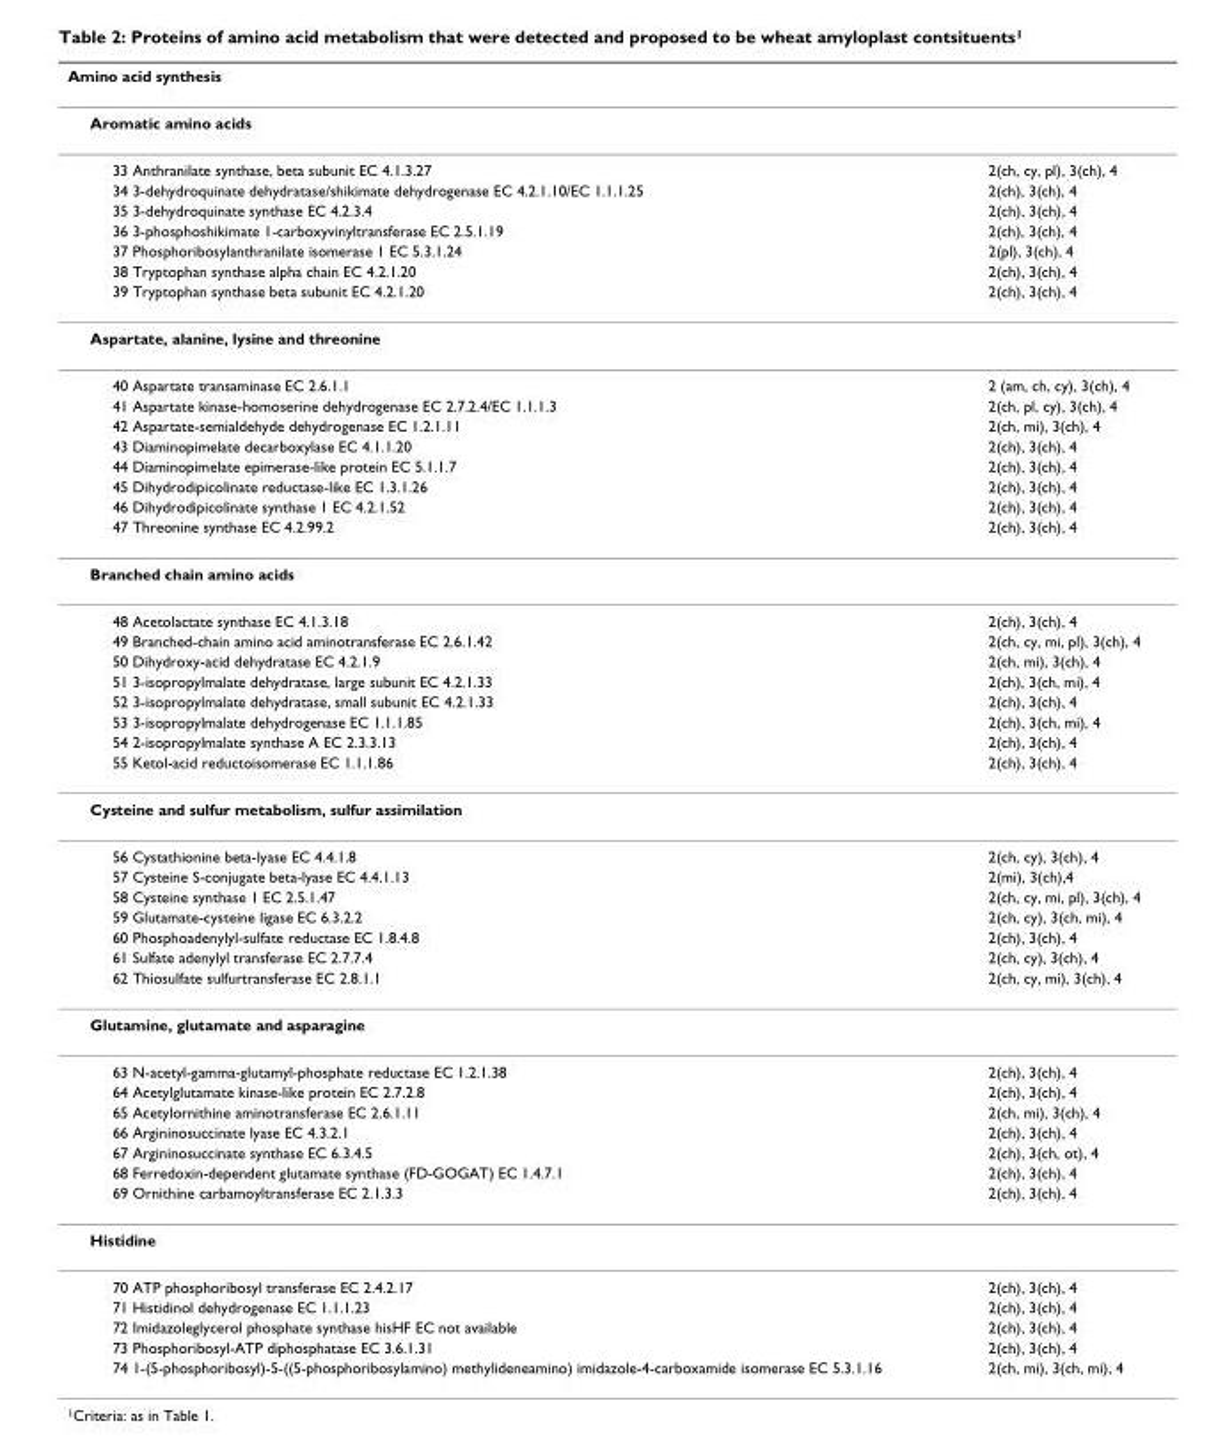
<table><thead><tr><td>Amino acid synthesis</td><td></td></tr></thead><tbody><tr><td colspan="2">Aromatic amino acids</td></tr><tr><td>33 Anthranilate synthase, beta subunit EC 4.1.3.27</td><td>2(ch, cy, pl), 3(ch), 4</td></tr><tr><td>34 3-dehydroquinate dehydratase/shikimate dehydrogenase EC 4.2.1.10/EC 1.1.1.25</td><td>2(ch), 3(ch), 4</td></tr><tr><td>35 3-dehydroquinate synthase EC 4.2.3.4</td><td>2(ch), 3(ch), 4</td></tr><tr><td>36 3-phosphoshikimate 1-carboxyvinyltransferase EC 2.5.1.19</td><td>2(ch), 3(ch), 4</td></tr><tr><td>37 Phosphoribosylanthranilate isomerase 1 EC 5.3.1.24</td><td>2(pl), 3(ch), 4</td></tr><tr><td>38 Tryptophan synthase alpha chain EC 4.2.1.20</td><td>2(ch), 3(ch), 4</td></tr><tr><td>39 Tryptophan synthase beta subunit EC 4.2.1.20</td><td>2(ch), 3(ch), 4</td></tr><tr><td colspan="2">Aspartate, alanine, lysine and threonine</td></tr><tr><td>40 Aspartate transaminase EC 2.6.1.1</td><td>2 (am, ch, cy), 3(ch), 4</td></tr><tr><td>41 Aspartate kinase-homoserine dehydrogenase EC 2.7.2.4/EC 1.1.1.3</td><td>2(ch, pl, cy), 3(ch), 4</td></tr><tr><td>42 Aspartate-semialdehyde dehydrogenase EC 1.2.1.11</td><td>2(ch, mi), 3(ch), 4</td></tr><tr><td>43 Diaminopimelate decarboxylase EC 4.1.1.20</td><td>2(ch), 3(ch), 4</td></tr><tr><td>44 Diaminopimelate epimerase-like protein EC 5.1.1.7</td><td>2(ch), 3(ch), 4</td></tr><tr><td>45 Dihydrodipicolinate reductase-like EC 1.3.1.26</td><td>2(ch), 3(ch), 4</td></tr><tr><td>46 Dihydrodipicolinate synthase 1 EC 4.2.1.52</td><td>2(ch), 3(ch), 4</td></tr><tr><td>47 Threonine synthase EC 4.2.99.2</td><td>2(ch), 3(ch), 4</td></tr><tr><td colspan="2">Branched chain amino acids</td></tr><tr><td>48 Acetolactate synthase EC 4.1.3.18</td><td>2(ch), 3(ch), 4</td></tr><tr><td>49 Branched-chain amino acid aminotransferase EC 2.6.1.42</td><td>2(ch, cy, mi, pl), 3(ch), 4</td></tr><tr><td>50 Dihydroxy-acid dehydratase EC 4.2.1.9</td><td>2(ch, mi), 3(ch), 4</td></tr><tr><td>51 3-isopropylmalate dehydratase, large subunit EC 4.2.1.33</td><td>2(ch), 3(ch, mi), 4</td></tr><tr><td>52 3-isopropylmalate dehydratase, small subunit EC 4.2.1.33</td><td>2(ch), 3(ch), 4</td></tr><tr><td>53 3-isopropylmalate dehydrogenase EC 1.1.1.85</td><td>2(ch), 3(ch, mi), 4</td></tr><tr><td>54 2-isopropylmalate synthase A EC 2.3.3.13</td><td>2(ch), 3(ch), 4</td></tr><tr><td>55 Ketol-acid reductoisomerase EC 1.1.1.86</td><td>2(ch), 3(ch), 4</td></tr><tr><td colspan="2">Cysteine and sulfur metabolism, sulfur assimilation</td></tr><tr><td>56 Cystathionine beta-lyase EC 4.4.1.8</td><td>2(ch, cy), 3(ch), 4</td></tr><tr><td>57 Cysteine S-conjugate beta-lyase EC 4.4.1.13</td><td>2(mi), 3(ch),4</td></tr><tr><td>58 Cysteine synthase 1 EC 2.5.1.47</td><td>2(ch, cy, mi, pl), 3(ch), 4</td></tr><tr><td>59 Glutamate-cysteine ligase EC 6.3.2.2</td><td>2(ch, cy), 3(ch, mi), 4</td></tr><tr><td>60 Phosphoadenylyl-sulfate reductase EC 1.8.4.8</td><td>2(ch), 3(ch), 4</td></tr><tr><td>61 Sulfate adenylyl transferase EC 2.7.7.4</td><td>2(ch, cy), 3(ch), 4</td></tr><tr><td>62 Thiosulfate sulfurtransferase EC 2.8.1.1</td><td>2(ch, cy, mi), 3(ch), 4</td></tr><tr><td colspan="2">Glutamine, glutamate and asparagine</td></tr><tr><td>63 N-acetyl-gamma-glutamyl-phosphate reductase EC 1.2.1.38</td><td>2(ch), 3(ch), 4</td></tr><tr><td>64 Acetylglutamate kinase-like protein EC 2.7.2.8</td><td>2(ch), 3(ch), 4</td></tr><tr><td>65 Acetylornithine aminotransferase EC 2.6.1.11</td><td>2(ch, mi), 3(ch), 4</td></tr><tr><td>66 Argininosuccinate lyase EC 4.3.2.1</td><td>2(ch), 3(ch), 4</td></tr><tr><td>67 Argininosuccinate synthase EC 6.3.4.5</td><td>2(ch), 3(ch, ot), 4</td></tr><tr><td>68 Ferredoxin-dependent glutamate synthase (FD-GOGAT) EC 1.4.7.1</td><td>2(ch), 3(ch), 4</td></tr><tr><td>69 Ornithine carbamoyltransferase EC 2.1.3.3</td><td>2(ch), 3(ch), 4</td></tr><tr><td colspan="2">Histidine</td></tr><tr><td>70 ATP phosphoribosyl transferase EC 2.4.2.17</td><td>2(ch), 3(ch), 4</td></tr><tr><td>71 Histidinol dehydrogenase EC 1.1.1.23</td><td>2(ch), 3(ch), 4</td></tr><tr><td>72 Imidazoleglycerol phosphate synthase hisHF EC not available</td><td>2(ch), 3(ch), 4</td></tr><tr><td>73 Phosphoribosyl-ATP diphosphatase EC 3.6.1.31</td><td>2(ch), 3(ch), 4</td></tr><tr><td>74 1-(5-phosphoribosyl)-5-((5-phosphoribosylamino) methylideneamino) imidazole-4-carboxamide isomerase EC 5.3.1.16</td><td>2(ch, mi), 3(ch, mi), 4</td></tr></tbody></table>